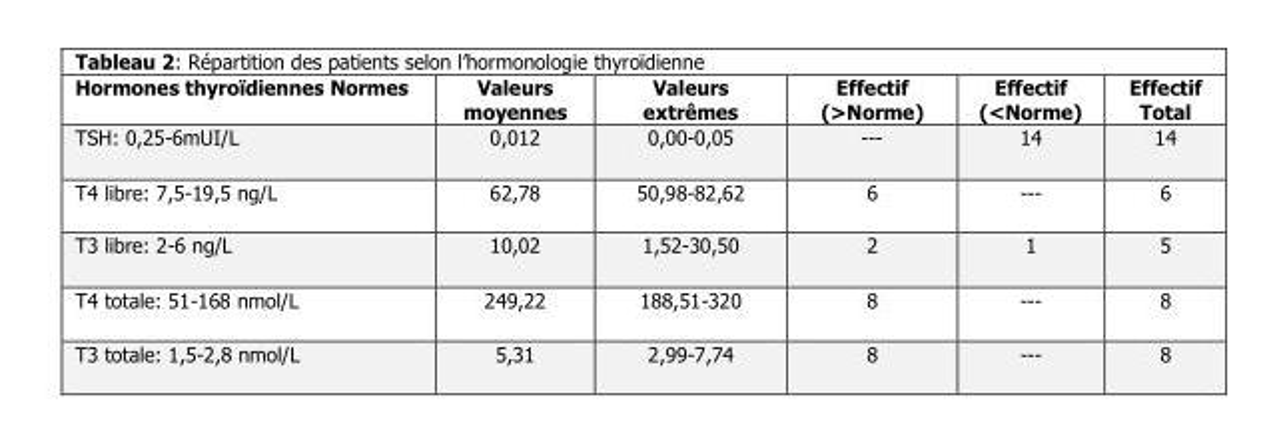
<table><thead><tr><td>Hormones thyroïdiennes Normes</td><td>Valeurs moyennes</td><td>Valeurs extrêmes</td><td>Effectif (&gt;Norme)</td><td>Effectif (&lt;Norme)</td><td>Effectif Total</td></tr></thead><tbody><tr><td>TSH: 0,25-6mUI/L</td><td>0,012</td><td>0,00-0,05</td><td>---</td><td>14</td><td>14</td></tr><tr><td>T4 libre: 7,5-19,5 ng/L</td><td>62,78</td><td>50,98-82,62</td><td>6</td><td>---</td><td>6</td></tr><tr><td>T3 libre: 2-6 ng/L</td><td>10,02</td><td>1,52-30,50</td><td>2</td><td>1</td><td>5</td></tr><tr><td>T4 totale: 51-168 nmol/L</td><td>249,22</td><td>188,51-320</td><td>8</td><td>---</td><td>8</td></tr><tr><td>T3 totale: 1,5-2,8 nmol/L</td><td>5,31</td><td>2,99-7,74</td><td>8</td><td>---</td><td>8</td></tr></tbody></table>